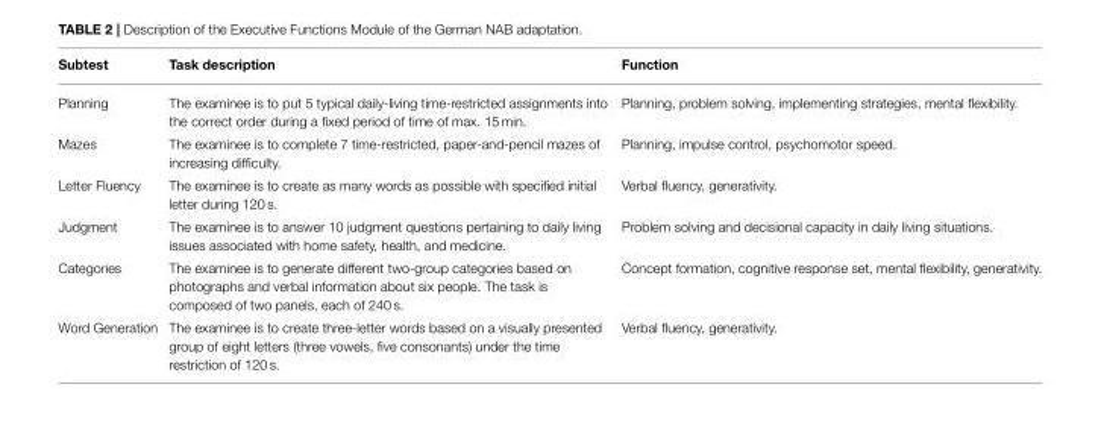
<table><thead><tr><td>Subtest</td><td>Task description</td><td>Function</td></tr></thead><tbody><tr><td>Planning</td><td>The examinee is to put 5 typical daily-living time-restricted assignments into the correct order during a fixed period of time of max. 15 min.</td><td>Planning, problem solving, implementing strategies, mental flexibility.</td></tr><tr><td>Mazes</td><td>The examinee is to complete 7 time-restricted, paper-and-pencil mazes of increasing difficulty.</td><td>Planning, impulse control, psychomotor speed.</td></tr><tr><td>Letter Fluency</td><td>The examinee is to create as many words as possible with specified initial letter during 120 s.</td><td>Verbal fluency, generativity.</td></tr><tr><td>Judgment</td><td>The examinee is to answer 10 judgment questions pertaining to daily living issues associated with home safety, health, and medicine.</td><td>Problem solving and decisional capacity in daily living situations.</td></tr><tr><td>Categories</td><td>The examinee is to generate different two-group categories based on photographs and verbal information about six people. The task is composed of two panels, each of 240 s.</td><td>Concept formation, cognitive response set, mental flexibility, generativity.</td></tr><tr><td>Word Generation</td><td>The examinee is to create three-letter words based on a visually presented group of eight letters (three vowels, five consonants) under the time restriction of 120 s.</td><td>Verbal fluency, generativity.</td></tr></tbody></table>